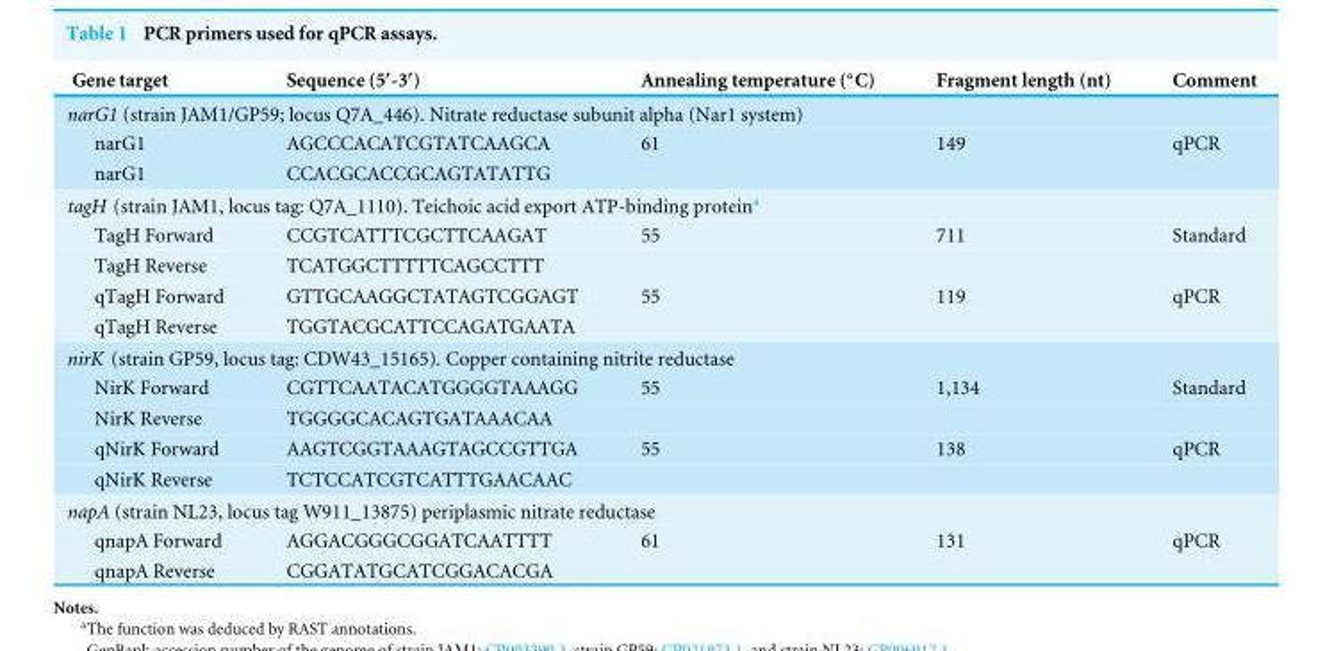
<table><thead><tr><td>Gene target</td><td>Sequence (5′-3′)</td><td>Annealing temperature (◦C)</td><td>Fragment length (nt)</td><td>Comment</td></tr></thead><tbody><tr><td colspan="5">narG1 (strain JAM1/GP59; locus Q7A_446). Nitrate reductase subunit alpha (Nar1 system)</td></tr><tr><td>narG1</td><td>AGCCCACATCGTATCAAGCA</td><td>61</td><td>149</td><td>qPCR</td></tr><tr><td>narG1</td><td>CCACGCACCGCAGTATATTG</td><td></td><td></td><td></td></tr><tr><td colspan="5">tagH (strain JAM1, locus tag: Q7A_1110). Teichoic acid export ATP-binding protein<sup>a</sup></td></tr><tr><td>TagH Forward</td><td>CCGTCATTTCGCTTCAAGAT</td><td>55</td><td>711</td><td>Standard</td></tr><tr><td>TagH Reverse</td><td>TCATGGCTTTTTCAGCCTTT</td><td></td><td></td><td></td></tr><tr><td>qTagH Forward</td><td>GTTGCAAGGCTATAGTCGGAGT</td><td>55</td><td>119</td><td>qPCR</td></tr><tr><td>qTagH Reverse</td><td>TGGTACGCATTCCAGATGAATA</td><td></td><td></td><td></td></tr><tr><td colspan="5">nirK (strain GP59, locus tag: CDW43_15165). Copper containing nitrite reductase</td></tr><tr><td>NirK Forward</td><td>CGTTCAATACATGGGGTAAAGG</td><td>55</td><td>1,134</td><td>Standard</td></tr><tr><td>NirK Reverse</td><td>TGGGGCACAGTGATAAACAA</td><td></td><td></td><td></td></tr><tr><td>qNirK Forward</td><td>AAGTCGGTAAAGTAGCCGTTGA</td><td>55</td><td>138</td><td>qPCR</td></tr><tr><td>qNirK Reverse</td><td>TCTCCATCGTCATTTGAACAAC</td><td></td><td></td><td></td></tr><tr><td colspan="5">napA (strain NL23, locus tag W911_13875) periplasmic nitrate reductase</td></tr><tr><td>qnapA Forward</td><td>AGGACGGGCGGATCAATTTT</td><td>61</td><td>131</td><td>qPCR</td></tr><tr><td>qnapA Reverse</td><td>CGGATATGCATCGGACACGA</td><td></td><td></td><td></td></tr></tbody></table>